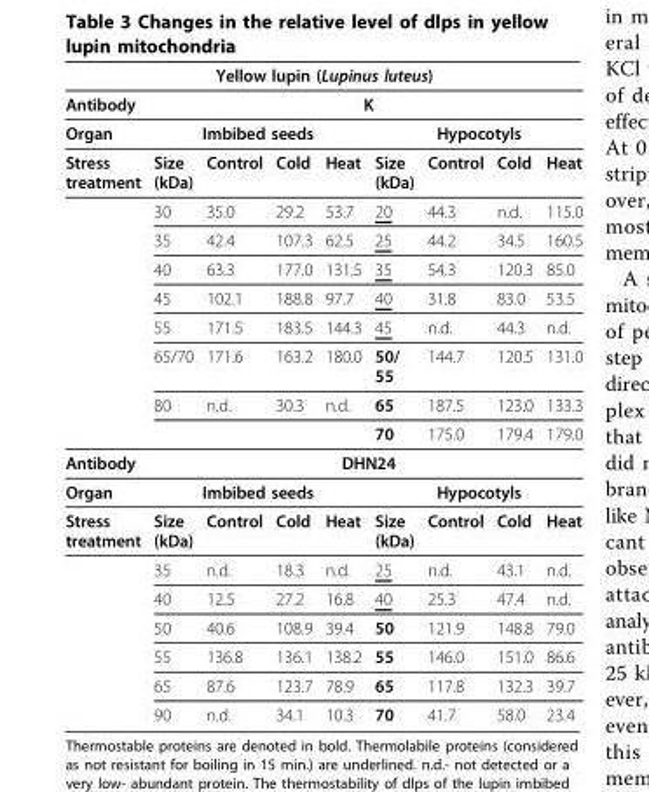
<table><thead><tr><td colspan="9">Yellow lupin (Lupinus luteus)</td></tr><tr><td rowspan="3">Antibody Organ Stress treatment</td><td colspan="8">K</td></tr><tr><td colspan="4">Imbibed seeds</td><td colspan="4">Hypocotyls</td></tr><tr><td>Size (kDa)</td><td>Control</td><td>Cold</td><td>Heat</td><td>Size (kDa)</td><td>Control</td><td>Cold</td><td>Heat</td></tr></thead><tbody><tr><td></td><td>30</td><td>35.0</td><td>29.2</td><td>53.7</td><td>20</td><td>44.3</td><td>n.d.</td><td>115.0</td></tr><tr><td></td><td>35</td><td>42.4</td><td>107.3</td><td>62.5</td><td>25</td><td>44.2</td><td>34.5</td><td>160.5</td></tr><tr><td></td><td>40</td><td>63.3</td><td>177.0</td><td>131.5</td><td>35</td><td>54.3</td><td>120.3</td><td>85.0</td></tr><tr><td></td><td>45</td><td>102.1</td><td>188.8</td><td>97.7</td><td>40</td><td>31.8</td><td>83.0</td><td>53.5</td></tr><tr><td></td><td>55</td><td>171.5</td><td>183.5</td><td>144.3</td><td>45</td><td>n.d.</td><td>44.3</td><td>n.d.</td></tr><tr><td></td><td>65/70</td><td>171.6</td><td>163.2</td><td>180.0</td><td>50/ 55</td><td>144.7</td><td>120.5</td><td>131.0</td></tr><tr><td></td><td>80</td><td>n.d.</td><td>30.3</td><td>n.d.</td><td>65</td><td>187.5</td><td>123.0</td><td>133.3</td></tr><tr><td></td><td></td><td></td><td></td><td></td><td>70</td><td>175.0</td><td>179.4</td><td>179.0</td></tr><tr><td>Antibody</td><td colspan="8">DHN24</td></tr><tr><td>Organ</td><td colspan="4">Imbibed seeds</td><td colspan="4">Hypocotyls</td></tr><tr><td rowspan="7">Stress treatment</td><td>Size (kDa)</td><td>Control</td><td>Cold</td><td>Heat</td><td>Size (kDa)</td><td>Control</td><td>Cold</td><td>Heat</td></tr><tr><td>35</td><td>n.d.</td><td>18.3</td><td>n.d.</td><td>25</td><td>n.d.</td><td>43.1</td><td>n.d.</td></tr><tr><td>40</td><td>12.5</td><td>27.2</td><td>16.8</td><td>40</td><td>25.3</td><td>47.4</td><td>n.d.</td></tr><tr><td>50</td><td>40.6</td><td>108.9</td><td>39.4</td><td>50</td><td>121.9</td><td>148.8</td><td>79.0</td></tr><tr><td>55</td><td>136.8</td><td>136.1</td><td>138.2</td><td>55</td><td>146.0</td><td>151.0</td><td>86.6</td></tr><tr><td>65</td><td>87.6</td><td>123.7</td><td>78.9</td><td>65</td><td>117.8</td><td>132.3</td><td>39.7</td></tr><tr><td>90</td><td>n.d.</td><td>34.1</td><td>10.3</td><td>70</td><td>41.7</td><td>58.0</td><td>23.4</td></tr></tbody></table>